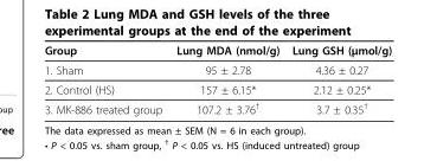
<table><thead><tr><td>Group</td><td>Lung MDA (nmol/g)</td><td>Lung GSH (μmol/g)</td></tr></thead><tbody><tr><td>1. Sham</td><td>95 ± 2.78</td><td>4.36 ± 0.27</td></tr><tr><td>2. Control (HS)</td><td>157 ± 6.15*</td><td>2.12 ± 0.25*</td></tr><tr><td>3. MK-886 treated group</td><td>107.2 ± 3.76<sup>†</sup></td><td>3.7 ± 0.35<sup>†</sup></td></tr></tbody></table>